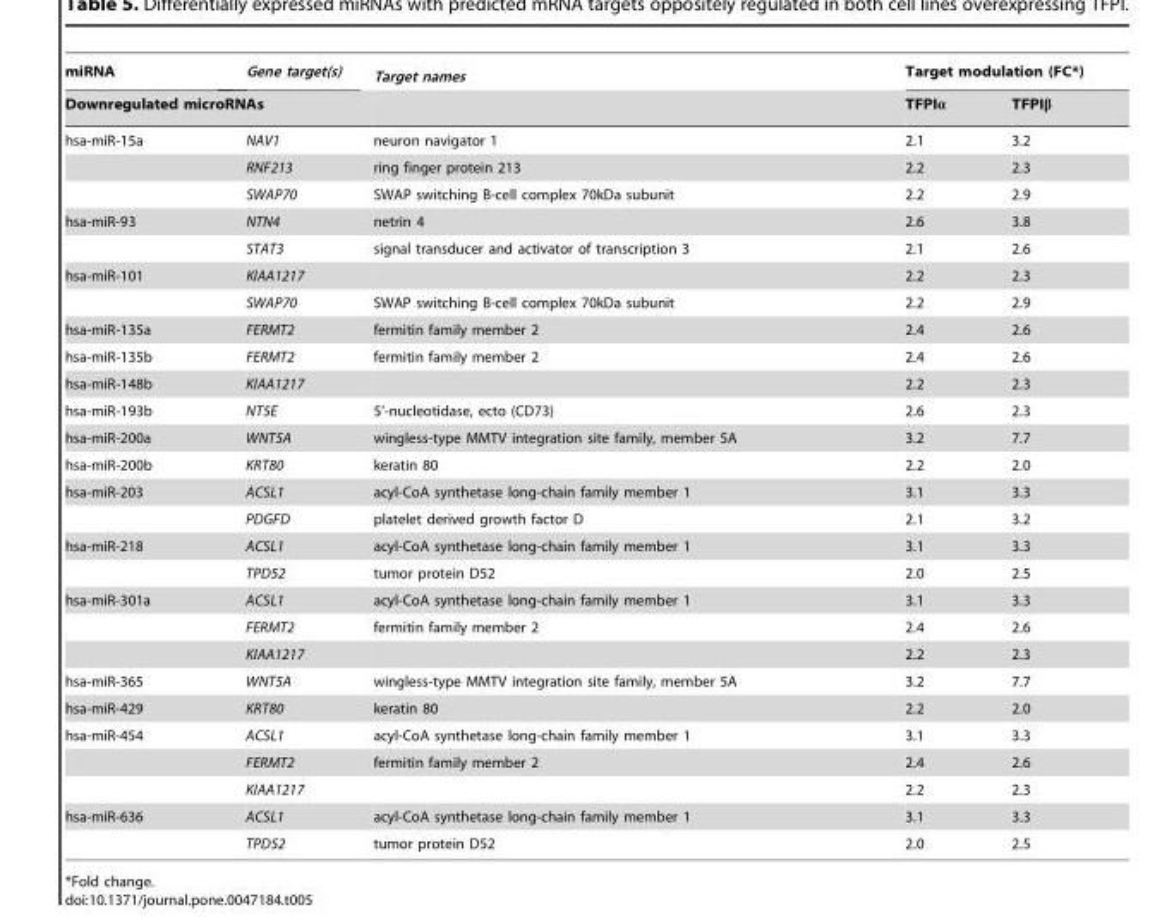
<table><thead><tr><td>miRNA</td><td>Gene target(s)</td><td rowspan="2">Target names</td><td colspan="2">Target modulation (FC*)</td></tr><tr><td colspan="2">Downregulated microRNAs</td><td>TFPIα</td><td>TFPIβ</td></tr></thead><tbody><tr><td rowspan="3">hsa-miR-15a</td><td>NAV1</td><td>neuron navigator 1</td><td>2.1</td><td>3.2</td></tr><tr><td>RNF213</td><td>ring finger protein 213</td><td>2.2</td><td>2.3</td></tr><tr><td>SWAP70</td><td>SWAP switching B-cell complex 70kDa subunit</td><td>2.2</td><td>2.9</td></tr><tr><td rowspan="2">hsa-miR-93</td><td>NTN4</td><td>netrin 4</td><td>2.6</td><td>3.8</td></tr><tr><td>STAT3</td><td>signal transducer and activator of transcription 3</td><td>2.1</td><td>2.6</td></tr><tr><td rowspan="2">hsa-miR-101</td><td>KIAA1217</td><td></td><td>2.2</td><td>2.3</td></tr><tr><td>SWAP70</td><td>SWAP switching B-cell complex 70kDa subunit</td><td>2.2</td><td>2.9</td></tr><tr><td>hsa-miR-135a</td><td>FERMT2</td><td>fermitin family member 2</td><td>2.4</td><td>2.6</td></tr><tr><td>hsa-miR-135b</td><td>FERMT2</td><td>fermitin family member 2</td><td>2.4</td><td>2.6</td></tr><tr><td>hsa-miR-148b</td><td>KIAA1217</td><td></td><td>2.2</td><td>2.3</td></tr><tr><td>hsa-miR-193b</td><td>NT5E</td><td>5’-nucleotidase, ecto (CD73)</td><td>2.6</td><td>2.3</td></tr><tr><td>hsa-miR-200a</td><td>WNT5A</td><td>wingless-type MMTV integration site family, member 5A</td><td>3.2</td><td>7.7</td></tr><tr><td>hsa-miR-200b</td><td>KRT80</td><td>keratin 80</td><td>2.2</td><td>2.0</td></tr><tr><td rowspan="2">hsa-miR-203</td><td>ACSL1</td><td>acyl-CoA synthetase long-chain family member 1</td><td>3.1</td><td>3.3</td></tr><tr><td>PDGFD</td><td>platelet derived growth factor D</td><td>2.1</td><td>3.2</td></tr><tr><td rowspan="2">hsa-miR-218</td><td>ACSL1</td><td>acyl-CoA synthetase long-chain family member 1</td><td>3.1</td><td>3.3</td></tr><tr><td>TPD52</td><td>tumor protein D52</td><td>2.0</td><td>2.5</td></tr><tr><td rowspan="3">hsa-miR-301a</td><td>ACSL1</td><td>acyl-CoA synthetase long-chain family member 1</td><td>3.1</td><td>3.3</td></tr><tr><td>FERMT2</td><td>fermitin family member 2</td><td>2.4</td><td>2.6</td></tr><tr><td>KIAA1217</td><td></td><td>2.2</td><td>2.3</td></tr><tr><td>hsa-miR-365</td><td>WNT5A</td><td>wingless-type MMTV integration site family, member 5A</td><td>3.2</td><td>7.7</td></tr><tr><td>hsa-miR-429</td><td>KRT80</td><td>keratin 80</td><td>2.2</td><td>2.0</td></tr><tr><td rowspan="3">hsa-miR-454</td><td>ACSL1</td><td>acyl-CoA synthetase long-chain family member 1</td><td>3.1</td><td>3.3</td></tr><tr><td>FERMT2</td><td>fermitin family member 2</td><td>2.4</td><td>2.6</td></tr><tr><td>KIAA1217</td><td></td><td>2.2</td><td>2.3</td></tr><tr><td rowspan="2">hsa-miR-636</td><td>ACSL1</td><td>acyl-CoA synthetase long-chain family member 1</td><td>3.1</td><td>3.3</td></tr><tr><td>TPD52</td><td>tumor protein D52</td><td>2.0</td><td>2.5</td></tr></tbody></table>